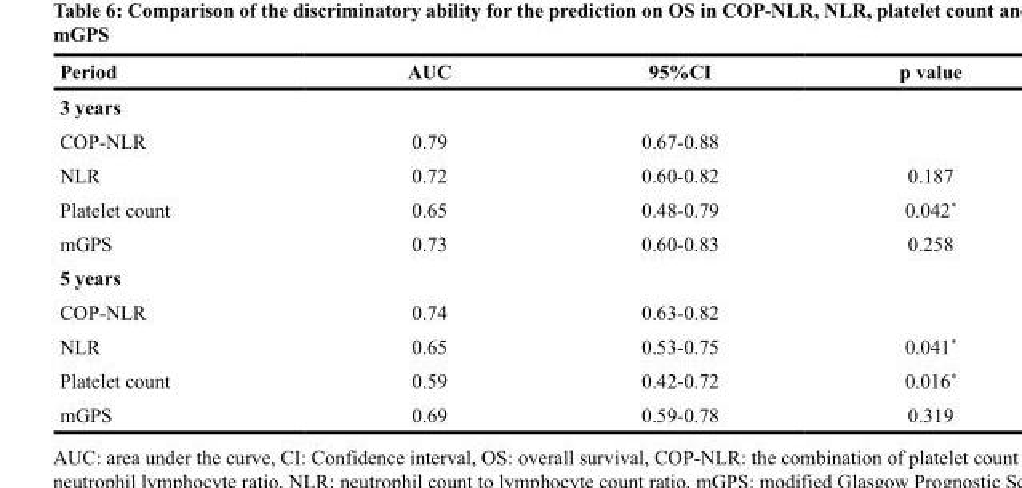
<table><thead><tr><td>Period</td><td>AUC</td><td>95%CI</td><td>p value</td></tr></thead><tbody><tr><td colspan="4">3 years</td></tr><tr><td>COP-NLR</td><td>0.79</td><td>0.67-0.88</td><td></td></tr><tr><td>NLR</td><td>0.72</td><td>0.60-0.82</td><td>0.187</td></tr><tr><td>Platelet count</td><td>0.65</td><td>0.48-0.79</td><td>0.042*</td></tr><tr><td>mGPS</td><td>0.73</td><td>0.60-0.83</td><td>0.258</td></tr><tr><td colspan="4">5 years</td></tr><tr><td>COP-NLR</td><td>0.74</td><td>0.63-0.82</td><td></td></tr><tr><td>NLR</td><td>0.65</td><td>0.53-0.75</td><td>0.041*</td></tr><tr><td>Platelet count</td><td>0.59</td><td>0.42-0.72</td><td>0.016*</td></tr><tr><td>mGPS</td><td>0.69</td><td>0.59-0.78</td><td>0.319</td></tr></tbody></table>